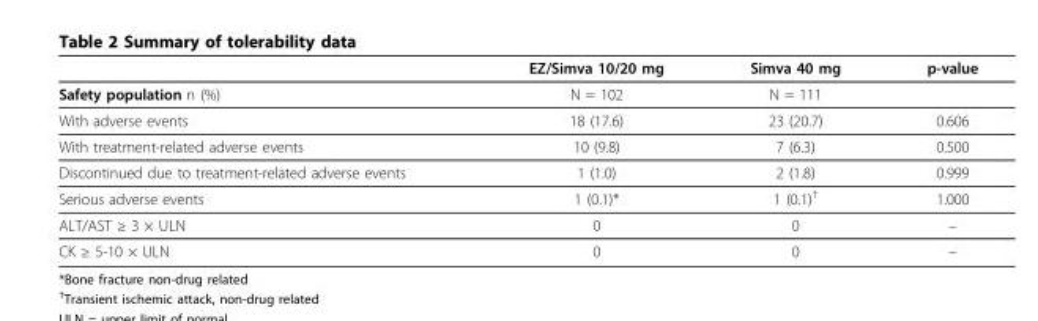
<table><thead><tr><td></td><td>EZ/Simva 10/20 mg</td><td>Simva 40 mg</td><td>p-value</td></tr></thead><tbody><tr><td>Safety population n (%)</td><td>N = 102</td><td>N = 111</td><td></td></tr><tr><td>With adverse events</td><td>18 (17.6)</td><td>23 (20.7)</td><td>0.606</td></tr><tr><td>With treatment-related adverse events</td><td>10 (9.8)</td><td>7 (6.3)</td><td>0.500</td></tr><tr><td>Discontinued due to treatment-related adverse events</td><td>1 (1.0)</td><td>2 (1.8)</td><td>0.999</td></tr><tr><td>Serious adverse events</td><td>1 (0.1)*</td><td>1 (0.1)<sup>†</sup></td><td>1.000</td></tr><tr><td>ALT/AST ≥ 3 × ULN</td><td>0</td><td>0</td><td>–</td></tr><tr><td>CK ≥ 5-10 × ULN</td><td>0</td><td>0</td><td>–</td></tr></tbody></table>